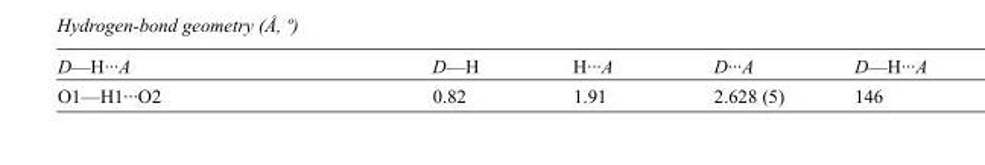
<table><tbody><tr><td>D—H···A</td><td>D—H</td><td>H···A</td><td>D···A</td><td>D—H···A</td></tr><tr><td>O1—H1···O2</td><td>0.82</td><td>1.91</td><td>2.628 (5)</td><td>146</td></tr></tbody></table>